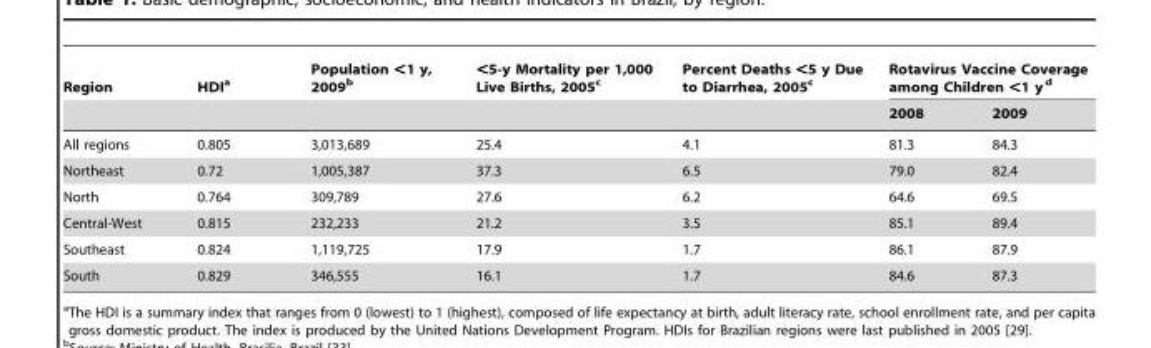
<table><thead><tr><td rowspan="2">Region</td><td rowspan="2">HDI<sup>a</sup></td><td rowspan="2">Population &lt;1 y, 2009<sup>b</sup></td><td rowspan="2">&lt;5-y Mortality per 1,000 Live Births, 2005<sup>c</sup></td><td rowspan="2">Percent Deaths &lt;5 y Due to Diarrhea, 2005<sup>c</sup></td><td colspan="2">Rotavirus Vaccine Coverage among Children &lt;1 y <sup>d</sup></td></tr><tr><td>2008</td><td>2009</td></tr></thead><tbody><tr><td>All regions</td><td>0.805</td><td>3,013,689</td><td>25.4</td><td>4.1</td><td>81.3</td><td>84.3</td></tr><tr><td>Northeast</td><td>0.72</td><td>1,005,387</td><td>37.3</td><td>6.5</td><td>79.0</td><td>82.4</td></tr><tr><td>North</td><td>0.764</td><td>309,789</td><td>27.6</td><td>6.2</td><td>64.6</td><td>69.5</td></tr><tr><td>Central-West</td><td>0.815</td><td>232,233</td><td>21.2</td><td>3.5</td><td>85.1</td><td>89.4</td></tr><tr><td>Southeast</td><td>0.824</td><td>1,119,725</td><td>17.9</td><td>1.7</td><td>86.1</td><td>87.9</td></tr><tr><td>South</td><td>0.829</td><td>346,555</td><td>16.1</td><td>1.7</td><td>84.6</td><td>87.3</td></tr></tbody></table>